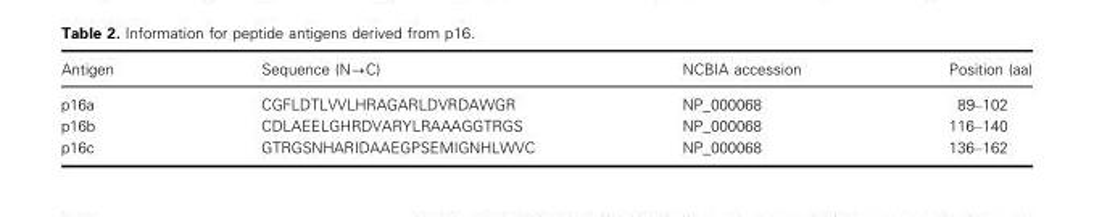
<table><thead><tr><td>Antigen</td><td>Sequence (N→C)</td><td>NCBIA accession</td><td>Position (aa)</td></tr></thead><tbody><tr><td>p16a</td><td>CGFLDTLVVLHRAGARLDVRDAWGR</td><td>NP_000068</td><td>89–102</td></tr><tr><td>p16b</td><td>CDLAEELGHRDVARYLRAAAGGTRGS</td><td>NP_000068</td><td>116–140</td></tr><tr><td>p16c</td><td>GTRGSNHARIDAAEGPSEMIGNHLWVC</td><td>NP_000068</td><td>136–162</td></tr></tbody></table>